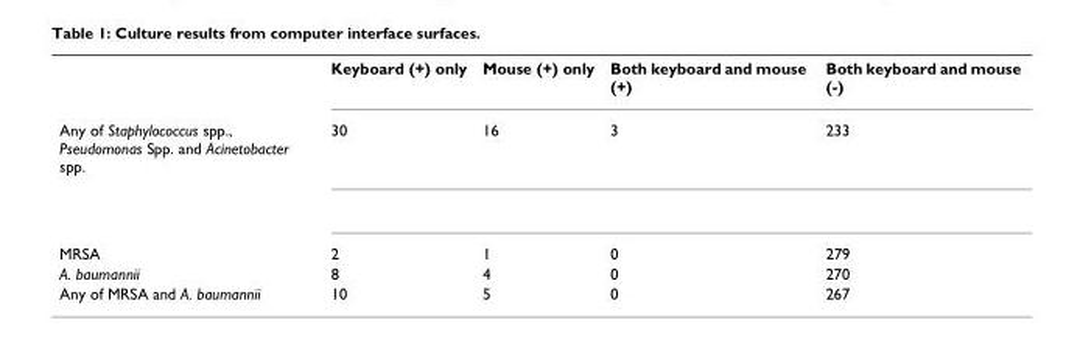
<table><thead><tr><td></td><td>Keyboard (+) only</td><td>Mouse (+) only</td><td>Both keyboard and mouse (+)</td><td>Both keyboard and mouse (-)</td></tr></thead><tbody><tr><td>Any of Staphylococcus spp., Pseudomonas Spp. and Acinetobacter spp.</td><td>30</td><td>16</td><td>3</td><td>233</td></tr><tr><td>MRSA</td><td>2</td><td>1</td><td>0</td><td>279</td></tr><tr><td>A. baumannii</td><td>8</td><td>4</td><td>0</td><td>270</td></tr><tr><td>Any of MRSA and A. baumannii</td><td>10</td><td>5</td><td>0</td><td>267</td></tr></tbody></table>